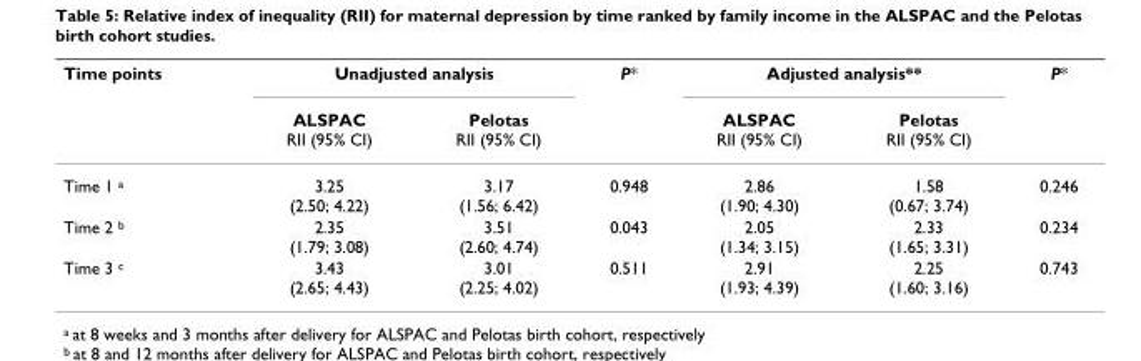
<table><thead><tr><td rowspan="2">Time points</td><td colspan="2">Unadjusted analysis</td><td rowspan="2">P*</td><td colspan="2">Adjusted analysis**</td><td rowspan="2">P*</td></tr><tr><td>ALSPAC RII (95% CI)</td><td>Pelotas RII (95% CI)</td><td>ALSPAC RII (95% CI)</td><td>Pelotas RII (95% CI)</td></tr></thead><tbody><tr><td>Time 1 <sup>a</sup></td><td>3.25 (2.50; 4.22)</td><td>3.17 (1.56; 6.42)</td><td>0.948</td><td>2.86 (1.90; 4.30)</td><td>1.58 (0.67; 3.74)</td><td>0.246</td></tr><tr><td>Time 2 <sup>b</sup></td><td>2.35 (1.79; 3.08)</td><td>3.51 (2.60; 4.74)</td><td>0.043</td><td>2.05 (1.34; 3.15)</td><td>2.33 (1.65; 3.31)</td><td>0.234</td></tr><tr><td>Time 3 <sup>c</sup></td><td>3.43 (2.65; 4.43)</td><td>3.01 (2.25; 4.02)</td><td>0.511</td><td>2.91 (1.93; 4.39)</td><td>2.25 (1.60; 3.16)</td><td>0.743</td></tr></tbody></table>